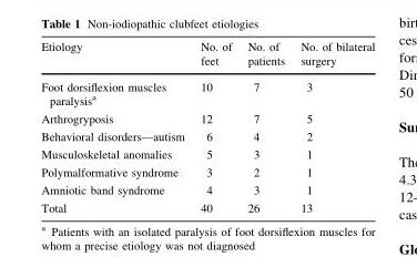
<table><thead><tr><td>Etiology</td><td>No. of feet</td><td>No. of patients</td><td>No. of bilateral surgery</td></tr></thead><tbody><tr><td>Foot dorsiflexion muscles paralysis<sup>a</sup></td><td>10</td><td>7</td><td>3</td></tr><tr><td>Arthrogryposis</td><td>12</td><td>7</td><td>5</td></tr><tr><td>Behavioral disorders—autism</td><td>6</td><td>4</td><td>2</td></tr><tr><td>Musculoskeletal anomalies</td><td>5</td><td>3</td><td>1</td></tr><tr><td>Polymalformative syndrome</td><td>3</td><td>2</td><td>1</td></tr><tr><td>Amniotic band syndrome</td><td>4</td><td>3</td><td>1</td></tr><tr><td>Total</td><td>40</td><td>26</td><td>13</td></tr></tbody></table>